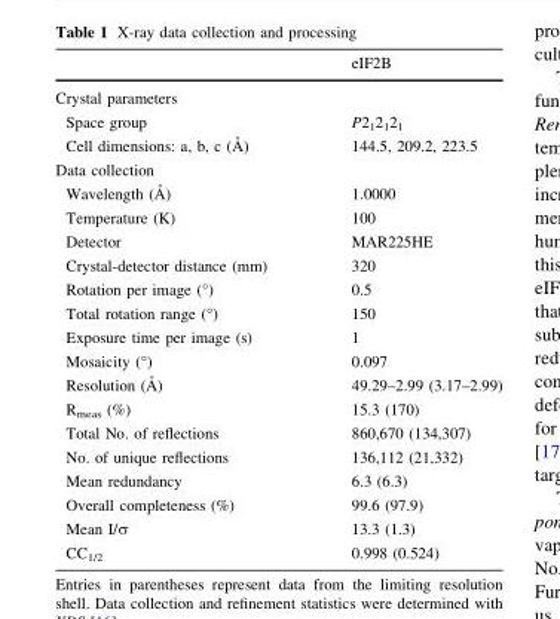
<table><thead><tr><td></td><td>eIF2B</td></tr></thead><tbody><tr><td colspan="2">Crystal parameters</td></tr><tr><td>Space group</td><td>P2<sub>1</sub>2<sub>1</sub>2<sub>1</sub></td></tr><tr><td>Cell dimensions: a, b, c (A˚ )</td><td>144.5, 209.2, 223.5</td></tr><tr><td colspan="2">Data collection</td></tr><tr><td>Wavelength (A˚ )</td><td>1.0000</td></tr><tr><td>Temperature (K)</td><td>100</td></tr><tr><td>Detector</td><td>MAR225HE</td></tr><tr><td>Crystal-detector distance (mm)</td><td>320</td></tr><tr><td>Rotation per image (°)</td><td>0.5</td></tr><tr><td>Total rotation range (°)</td><td>150</td></tr><tr><td>Exposure time per image (s)</td><td>1</td></tr><tr><td>Mosaicity (°)</td><td>0.097</td></tr><tr><td>Resolution (A˚ )</td><td>49.29–2.99 (3.17–2.99)</td></tr><tr><td>R<sub>meas</sub> (%)</td><td>15.3 (170)</td></tr><tr><td>Total No. of reflections</td><td>860,670 (134,307)</td></tr><tr><td>No. of unique reflections</td><td>136,112 (21,332)</td></tr><tr><td>Mean redundancy</td><td>6.3 (6.3)</td></tr><tr><td>Overall completeness (%)</td><td>99.6 (97.9)</td></tr><tr><td>Mean I/σ</td><td>13.3 (1.3)</td></tr><tr><td>CC<sub>1/2</sub></td><td>0.998 (0.524)</td></tr></tbody></table>